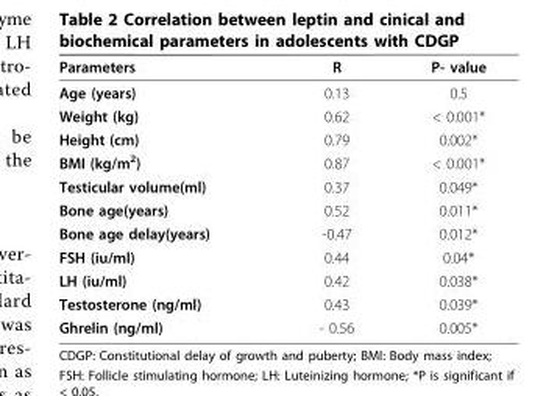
<table><thead><tr><td>Parameters</td><td>R</td><td>P- value</td></tr></thead><tbody><tr><td>Age (years)</td><td>0.13</td><td>0.5</td></tr><tr><td>Weight (kg)</td><td>0.62</td><td>&lt; 0.001*</td></tr><tr><td>Height (cm)</td><td>0.79</td><td>0.002*</td></tr><tr><td>BMI (kg/m<sup>2</sup>)</td><td>0.87</td><td>&lt; 0.001*</td></tr><tr><td>Testicular volume(ml)</td><td>0.37</td><td>0.049*</td></tr><tr><td>Bone age(years)</td><td>0.52</td><td>0.011*</td></tr><tr><td>Bone age delay(years)</td><td>-0.47</td><td>0.012*</td></tr><tr><td>FSH (iu/ml)</td><td>0.44</td><td>0.04*</td></tr><tr><td>LH (iu/ml)</td><td>0.42</td><td>0.038*</td></tr><tr><td>Testosterone (ng/ml)</td><td>0.43</td><td>0.039*</td></tr><tr><td>Ghrelin (ng/ml)</td><td>- 0.56</td><td>0.005*</td></tr></tbody></table>